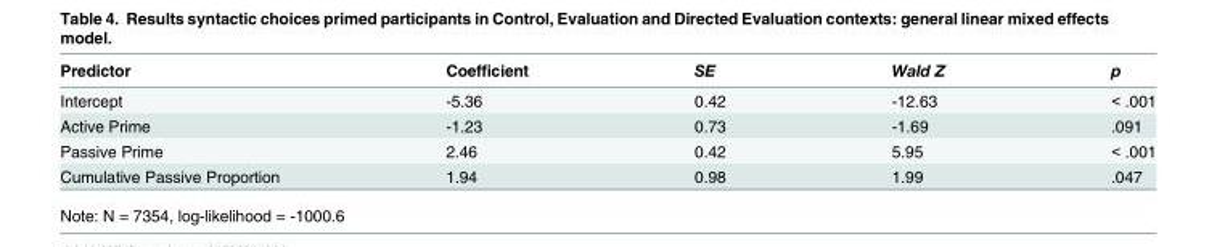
<table><thead><tr><td>Predictor</td><td>Coefficient</td><td>SE</td><td>Wald Z</td><td>p</td></tr></thead><tbody><tr><td>Intercept</td><td>-5.36</td><td>0.42</td><td>-12.63</td><td>&lt; .001</td></tr><tr><td>Active Prime</td><td>-1.23</td><td>0.73</td><td>-1.69</td><td>.091</td></tr><tr><td>Passive Prime</td><td>2.46</td><td>0.42</td><td>5.95</td><td>&lt; .001</td></tr><tr><td>Cumulative Passive Proportion</td><td>1.94</td><td>0.98</td><td>1.99</td><td>.047</td></tr></tbody></table>